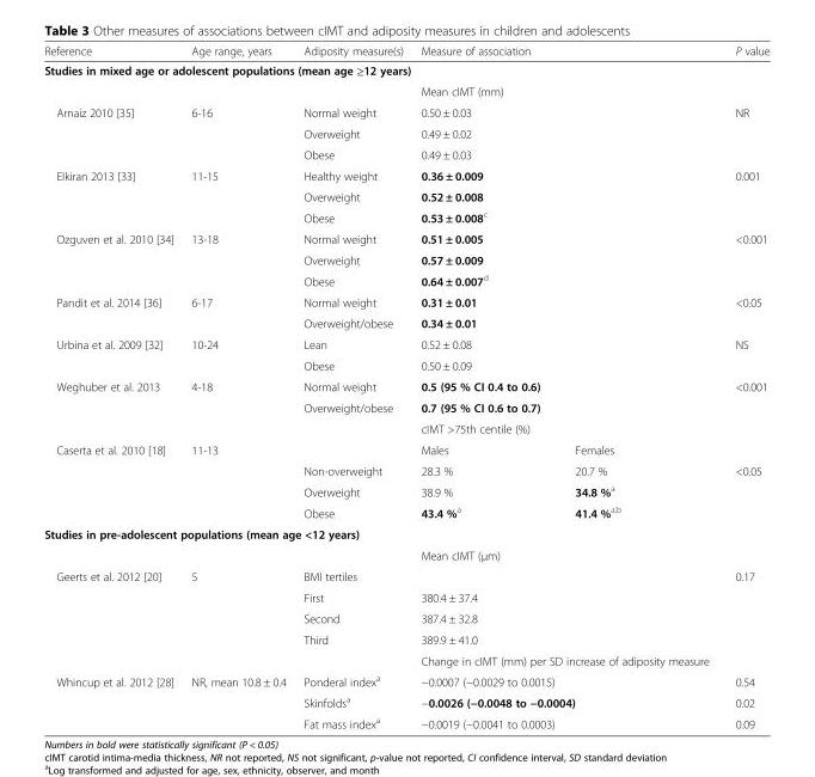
<table><thead><tr><td>Reference</td><td>Age range, years</td><td>Adiposity measure(s)</td><td colspan="2">Measure of association</td><td>P value</td></tr></thead><tbody><tr><td colspan="6">Studies in mixed age or adolescent populations (mean age ≥12 years)</td></tr><tr><td></td><td></td><td></td><td colspan="2">Mean cIMT (mm)</td><td></td></tr><tr><td rowspan="3">Arnaiz 2010 [35]</td><td rowspan="3">6-16</td><td>Normal weight</td><td colspan="2">0.50 ± 0.03</td><td>NR</td></tr><tr><td>Overweight</td><td colspan="2">0.49 ± 0.02</td><td rowspan="2"></td></tr><tr><td>Obese</td><td colspan="2">0.49 ± 0.03</td></tr><tr><td rowspan="3">Elkiran 2013 [33]</td><td rowspan="3">11-15</td><td>Healthy weight</td><td colspan="2">0.36 ± 0.009</td><td>0.001</td></tr><tr><td>Overweight</td><td colspan="2">0.52 ± 0.008</td><td rowspan="2"></td></tr><tr><td>Obese</td><td colspan="2">0.53 ± 0.008<sup>c</sup></td></tr><tr><td rowspan="3">Ozguven et al. 2010 [34]</td><td rowspan="3">13-18</td><td>Normal weight</td><td colspan="2">0.51 ± 0.005</td><td>&lt;0.001</td></tr><tr><td>Overweight</td><td colspan="2">0.57 ± 0.009</td><td rowspan="2"></td></tr><tr><td>Obese</td><td colspan="2">0.64 ± 0.007<sup>d</sup></td></tr><tr><td rowspan="2">Pandit et al. 2014 [36]</td><td rowspan="2">6-17</td><td>Normal weight</td><td colspan="2">0.31 ± 0.01</td><td>&lt;0.05</td></tr><tr><td>Overweight/obese</td><td colspan="2">0.34 ± 0.01</td><td></td></tr><tr><td rowspan="2">Urbina et al. 2009 [32]</td><td rowspan="2">10-24</td><td>Lean</td><td colspan="2">0.52 ± 0.08</td><td>NS</td></tr><tr><td>Obese</td><td colspan="2">0.50 ± 0.09</td><td></td></tr><tr><td rowspan="3">Weghuber et al. 2013</td><td rowspan="2">4-18</td><td>Normal weight</td><td colspan="2">0.5 (95 % CI 0.4 to 0.6)</td><td>&lt;0.001</td></tr><tr><td>Overweight/obese</td><td colspan="2">0.7 (95 % CI 0.6 to 0.7)</td><td></td></tr><tr><td></td><td></td><td colspan="2">cIMT &gt;75th centile (%)</td><td></td></tr><tr><td rowspan="4">Caserta et al. 2010 [18]</td><td rowspan="4">11-13</td><td></td><td>Males</td><td>Females</td><td></td></tr><tr><td>Non-overweight</td><td>28.3 %</td><td>20.7 %</td><td>&lt;0.05</td></tr><tr><td>Overweight</td><td>38.9 %</td><td>34.8 %<sup>a</sup></td><td rowspan="2"></td></tr><tr><td>Obese</td><td>43.4 %<sup>a</sup></td><td>41.4 %<sup>a,b</sup></td></tr><tr><td colspan="6">Studies in pre-adolescent populations (mean age &lt;12 years)</td></tr><tr><td></td><td></td><td></td><td colspan="2">Mean cIMT (μm)</td><td></td></tr><tr><td rowspan="5">Geerts et al. 2012 [20]</td><td rowspan="4">5</td><td>BMI tertiles</td><td colspan="2"></td><td>0.17</td></tr><tr><td>First</td><td colspan="2">380.4 ± 37.4</td><td rowspan="3"></td></tr><tr><td>Second</td><td colspan="2">387.4 ± 32.8</td></tr><tr><td>Third</td><td colspan="2">389.9 ± 41.0</td></tr><tr><td></td><td></td><td colspan="2">Change in cIMT (mm) per SD increase of adiposity measure</td><td></td></tr><tr><td rowspan="3">Whincup et al. 2012 [28]</td><td rowspan="3">NR, mean 10.8 ± 0.4</td><td>Ponderal index<sup>a</sup></td><td colspan="2">−0.0007 (−0.0029 to 0.0015)</td><td>0.54</td></tr><tr><td>Skinfolds<sup>a</sup></td><td colspan="2">−0.0026 (−0.0048 to −0.0004)</td><td>0.02</td></tr><tr><td>Fat mass index<sup>a</sup></td><td colspan="2">−0.0019 (−0.0041 to 0.0003)</td><td>0.09</td></tr></tbody></table>